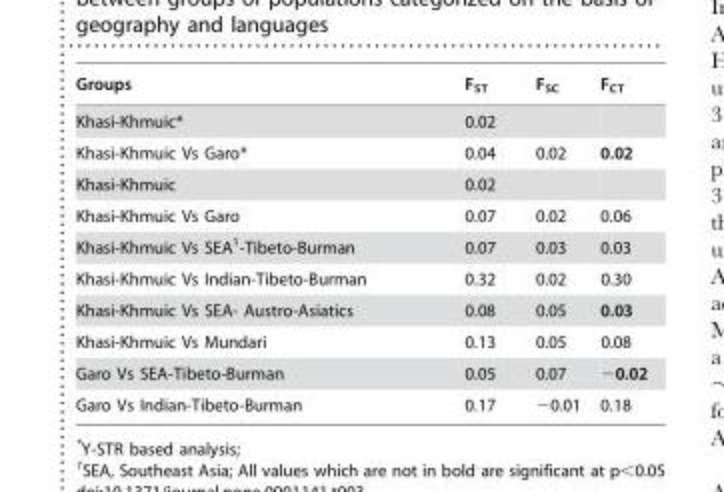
<table><thead><tr><td>Groups</td><td>F<sub>ST</sub></td><td>F<sub>SC</sub></td><td>F<sub>CT</sub></td></tr></thead><tbody><tr><td>Khasi-Khmuic*</td><td>0.02</td><td></td><td></td></tr><tr><td>Khasi-Khmuic Vs Garo*</td><td>0.04</td><td>0.02</td><td>0.02</td></tr><tr><td>Khasi-Khmuic</td><td>0.02</td><td></td><td></td></tr><tr><td>Khasi-Khmuic Vs Garo</td><td>0.07</td><td>0.02</td><td>0.06</td></tr><tr><td>Khasi-Khmuic Vs SEA<sup>1</sup>-Tibeto-Burman</td><td>0.07</td><td>0.03</td><td>0.03</td></tr><tr><td>Khasi-Khmuic Vs Indian-Tibeto-Burman</td><td>0.32</td><td>0.02</td><td>0.30</td></tr><tr><td>Khasi-Khmuic Vs SEA- Austro-Asiatics</td><td>0.08</td><td>0.05</td><td>0.03</td></tr><tr><td>Khasi-Khmuic Vs Mundari</td><td>0.13</td><td>0.05</td><td>0.08</td></tr><tr><td>Garo Vs SEA-Tibeto-Burman</td><td>0.05</td><td>0.07</td><td>−0.02</td></tr><tr><td>Garo Vs Indian-Tibeto-Burman</td><td>0.17</td><td>−0.01</td><td>0.18</td></tr></tbody></table>